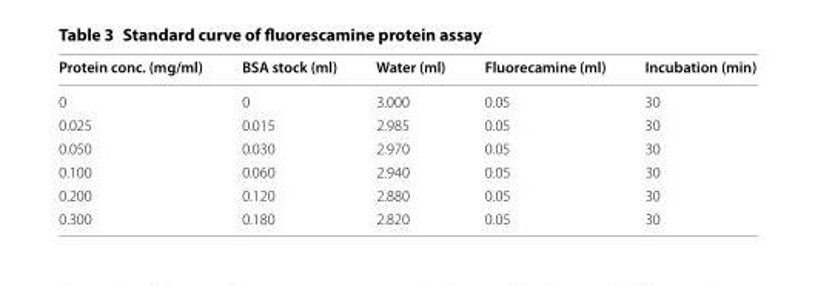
<table><thead><tr><td>Protein conc. (mg/ml)</td><td>BSA stock (ml)</td><td>Water (ml)</td><td>Fluorecamine (ml)</td><td>Incubation (min)</td></tr></thead><tbody><tr><td>0</td><td>0</td><td>3.000</td><td>0.05</td><td>30</td></tr><tr><td>0.025</td><td>0.015</td><td>2.985</td><td>0.05</td><td>30</td></tr><tr><td>0.050</td><td>0.030</td><td>2.970</td><td>0.05</td><td>30</td></tr><tr><td>0.100</td><td>0.060</td><td>2.940</td><td>0.05</td><td>30</td></tr><tr><td>0.200</td><td>0.120</td><td>2.880</td><td>0.05</td><td>30</td></tr><tr><td>0.300</td><td>0.180</td><td>2.820</td><td>0.05</td><td>30</td></tr></tbody></table>